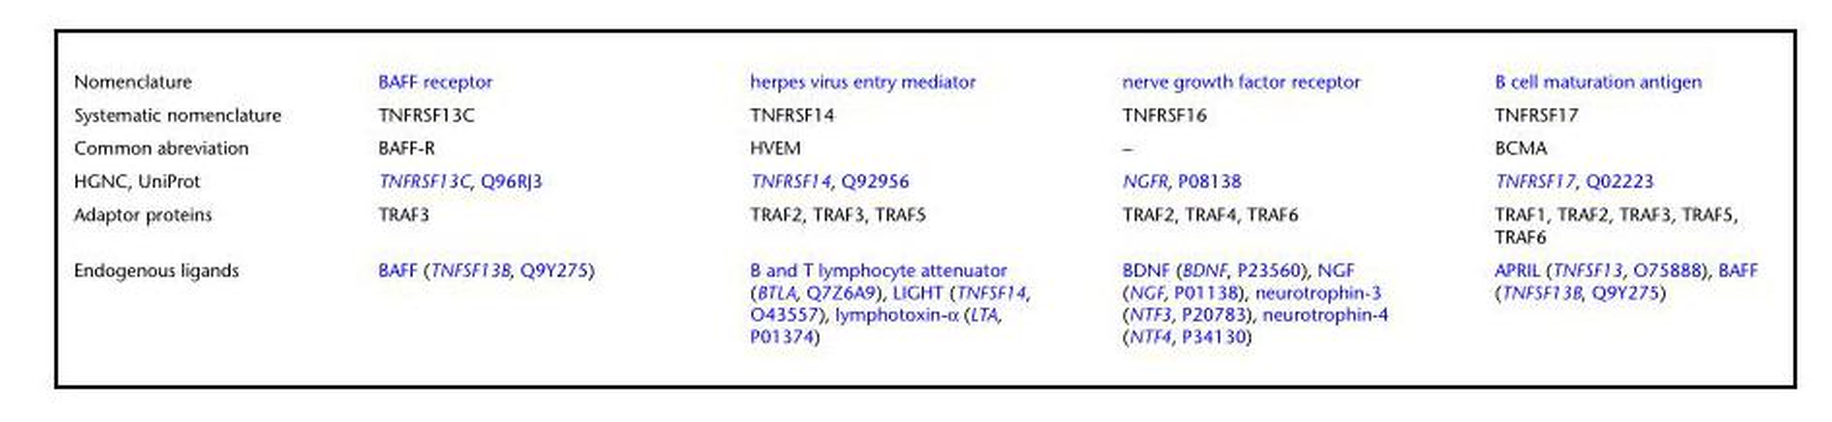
<table><tbody><tr><td>Nomenclature</td><td>BAFF receptor</td><td>herpes virus entry mediator</td><td>nerve growth factor receptor</td><td>B cell maturation antigen</td></tr><tr><td>Systematic nomenclature</td><td>TNFRSF13C</td><td>TNFRSF14</td><td>TNFRSF16</td><td>TNFRSF17</td></tr><tr><td>Common abreviation</td><td>BAFF-R</td><td>HVEM</td><td>–</td><td>BCMA</td></tr><tr><td>HGNC, UniProt</td><td>TNFRSF13C, Q96RJ3</td><td>TNFRSF14, Q92956</td><td>NGFR, P08138</td><td>TNFRSF17, Q02223</td></tr><tr><td>Adaptor proteins</td><td>TRAF3</td><td>TRAF2, TRAF3, TRAF5</td><td>TRAF2, TRAF4, TRAF6</td><td>TRAF1, TRAF2, TRAF3, TRAF5, TRAF6</td></tr><tr><td>Endogenous ligands</td><td>BAFF (TNFSF13B, Q9Y275)</td><td>B and T lymphocyte attenuator (BTLA, Q7Z6A9), LIGHT (TNFSF14, O43557), lymphotoxin-α (LTA, P01374)</td><td>BDNF (BDNF, P23560), NGF (NGF, P01138), neurotrophin-3 (NTF3, P20783), neurotrophin-4 (NTF4, P34130)</td><td>APRIL (TNFSF13, O75888), BAFF (TNFSF13B, Q9Y275)</td></tr></tbody></table>